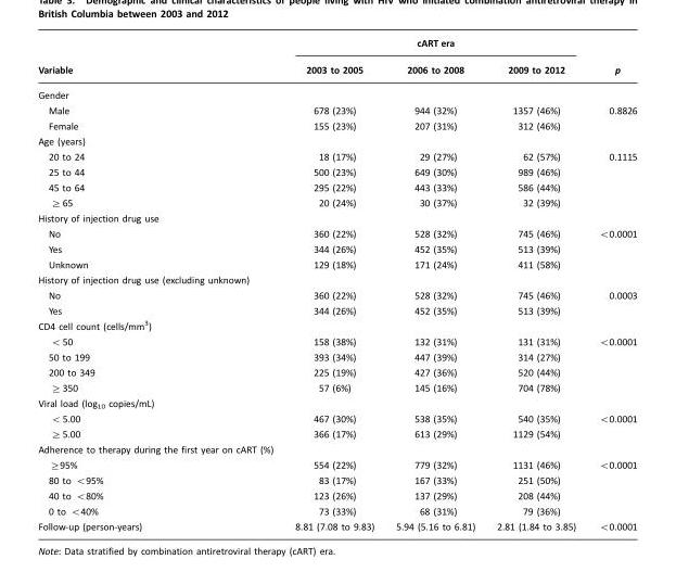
<table><thead><tr><td rowspan="2">Variable</td><td colspan="3">cART era</td><td rowspan="2">p</td></tr><tr><td>2003 to 2005</td><td>2006 to 2008</td><td>2009 to 2012</td></tr></thead><tbody><tr><td colspan="5">Gender</td></tr><tr><td>Male</td><td>678 (23%)</td><td>944 (32%)</td><td>1357 (46%)</td><td>0.8826</td></tr><tr><td>Female</td><td>155 (23%)</td><td>207 (31%)</td><td>312 (46%)</td><td></td></tr><tr><td colspan="5">Age (years)</td></tr><tr><td>20 to 24</td><td>18 (17%)</td><td>29 (27%)</td><td>62 (57%)</td><td>0.1115</td></tr><tr><td>25 to 44</td><td>500 (23%)</td><td>649 (30%)</td><td>989 (46%)</td><td></td></tr><tr><td>45 to 64</td><td>295 (22%)</td><td>443 (33%)</td><td>586 (44%)</td><td></td></tr><tr><td>≥65</td><td>20 (24%)</td><td>30 (37%)</td><td>32 (39%)</td><td></td></tr><tr><td colspan="5">History of injection drug use</td></tr><tr><td>No</td><td>360 (22%)</td><td>528 (32%)</td><td>745 (46%)</td><td>&lt;0.0001</td></tr><tr><td>Yes</td><td>344 (26%)</td><td>452 (35%)</td><td>513 (39%)</td><td></td></tr><tr><td>Unknown</td><td>129 (18%)</td><td>171 (24%)</td><td>411 (58%)</td><td></td></tr><tr><td colspan="5">History of injection drug use (excluding unknown)</td></tr><tr><td>No</td><td>360 (22%)</td><td>528 (32%)</td><td>745 (46%)</td><td>0.0003</td></tr><tr><td>Yes</td><td>344 (26%)</td><td>452 (35%)</td><td>513 (39%)</td><td></td></tr><tr><td colspan="5">CD4 cell count (cells/mm<sup>3</sup>)</td></tr><tr><td>&lt;50</td><td>158 (38%)</td><td>132 (31%)</td><td>131 (31%)</td><td>&lt;0.0001</td></tr><tr><td>50 to 199</td><td>393 (34%)</td><td>447 (39%)</td><td>314 (27%)</td><td></td></tr><tr><td>200 to 349</td><td>225 (19%)</td><td>427 (36%)</td><td>520 (44%)</td><td></td></tr><tr><td>≥350</td><td>57 (6%)</td><td>145 (16%)</td><td>704 (78%)</td><td></td></tr><tr><td colspan="5">Viral load (log<sub>10</sub> copies/mL)</td></tr><tr><td>&lt;5.00</td><td>467 (30%)</td><td>538 (35%)</td><td>540 (35%)</td><td>&lt;0.0001</td></tr><tr><td>≥5.00</td><td>366 (17%)</td><td>613 (29%)</td><td>1129 (54%)</td><td></td></tr><tr><td colspan="5">Adherence to therapy during the first year on cART (%)</td></tr><tr><td>≥95%</td><td>554 (22%)</td><td>779 (32%)</td><td>1131 (46%)</td><td>&lt;0.0001</td></tr><tr><td>80 to &lt;95%</td><td>83 (17%)</td><td>167 (33%)</td><td>251 (50%)</td><td></td></tr><tr><td>40 to &lt;80%</td><td>123 (26%)</td><td>137 (29%)</td><td>208 (44%)</td><td></td></tr><tr><td>0 to &lt;40%</td><td>73 (33%)</td><td>68 (31%)</td><td>79 (36%)</td><td></td></tr><tr><td>Follow-up (person-years)</td><td>8.81 (7.08 to 9.83)</td><td>5.94 (5.16 to 6.81)</td><td>2.81 (1.84 to 3.85)</td><td>&lt;0.0001</td></tr></tbody></table>